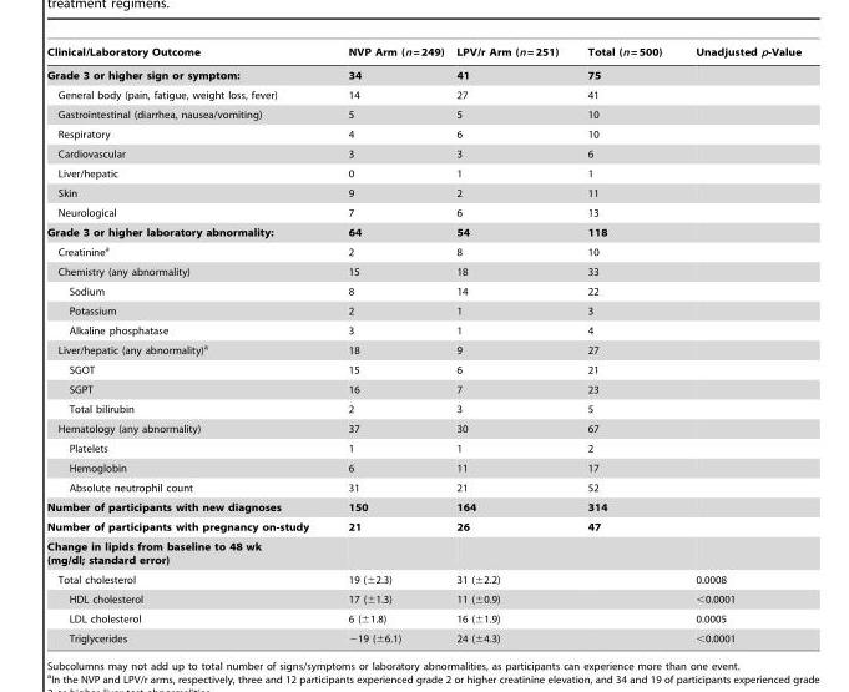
<table><thead><tr><td>Clinical/Laboratory Outcome</td><td>NVP Arm (n = 249)</td><td>LPV/r Arm (n = 251)</td><td>Total (n = 500)</td><td>Unadjusted p-Value</td></tr></thead><tbody><tr><td>Grade 3 or higher sign or symptom:</td><td>34</td><td>41</td><td>75</td><td></td></tr><tr><td>General body (pain, fatigue, weight loss, fever)</td><td>14</td><td>27</td><td>41</td><td></td></tr><tr><td>Gastrointestinal (diarrhea, nausea/vomiting)</td><td>5</td><td>5</td><td>10</td><td></td></tr><tr><td>Respiratory</td><td>4</td><td>6</td><td>10</td><td></td></tr><tr><td>Cardiovascular</td><td>3</td><td>3</td><td>6</td><td></td></tr><tr><td>Liver/hepatic</td><td>0</td><td>1</td><td>1</td><td></td></tr><tr><td>Skin</td><td>9</td><td>2</td><td>11</td><td></td></tr><tr><td>Neurological</td><td>7</td><td>6</td><td>13</td><td></td></tr><tr><td>Grade 3 or higher laboratory abnormality:</td><td>64</td><td>54</td><td>118</td><td></td></tr><tr><td>Creatinine<sup>a</sup></td><td>2</td><td>8</td><td>10</td><td></td></tr><tr><td>Chemistry (any abnormality)</td><td>15</td><td>18</td><td>33</td><td></td></tr><tr><td>Sodium</td><td>8</td><td>14</td><td>22</td><td></td></tr><tr><td>Potassium</td><td>2</td><td>1</td><td>3</td><td></td></tr><tr><td>Alkaline phosphatase</td><td>3</td><td>1</td><td>4</td><td></td></tr><tr><td>Liver/hepatic (any abnormality)<sup>a</sup></td><td>18</td><td>9</td><td>27</td><td></td></tr><tr><td>SGOT</td><td>15</td><td>6</td><td>21</td><td></td></tr><tr><td>SGPT</td><td>16</td><td>7</td><td>23</td><td></td></tr><tr><td>Total bilirubin</td><td>2</td><td>3</td><td>5</td><td></td></tr><tr><td>Hematology (any abnormality)</td><td>37</td><td>30</td><td>67</td><td></td></tr><tr><td>Platelets</td><td>1</td><td>1</td><td>2</td><td></td></tr><tr><td>Hemoglobin</td><td>6</td><td>11</td><td>17</td><td></td></tr><tr><td>Absolute neutrophil count</td><td>31</td><td>21</td><td>52</td><td></td></tr><tr><td>Number of participants with new diagnoses</td><td>150</td><td>164</td><td>314</td><td></td></tr><tr><td>Number of participants with pregnancy on-study</td><td>21</td><td>26</td><td>47</td><td></td></tr><tr><td colspan="5">Change in lipids from baseline to 48 wk (mg/dl; standard error)</td></tr><tr><td>Total cholesterol</td><td>19 (±2.3)</td><td>31 (±2.2)</td><td></td><td>0.0008</td></tr><tr><td>HDL cholesterol</td><td>17 (±1.3)</td><td>11 (±0.9)</td><td></td><td>&lt;0.0001</td></tr><tr><td>LDL cholesterol</td><td>6 (±1.8)</td><td>16 (±1.9)</td><td></td><td>0.0005</td></tr><tr><td>Triglycerides</td><td>−19 (±6.1)</td><td>24 (±4.3)</td><td></td><td>&lt;0.0001</td></tr></tbody></table>